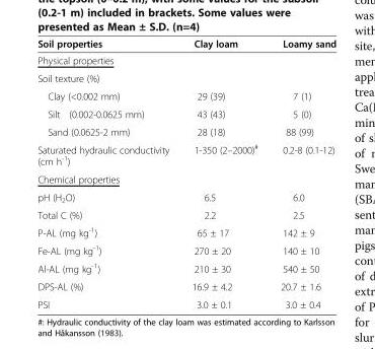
<table><thead><tr><td>Soil properties</td><td>Clay loam</td><td>Loamy sand</td></tr></thead><tbody><tr><td colspan="3">Physical properties</td></tr><tr><td colspan="3">Soil texture (%)</td></tr><tr><td>Clay (&lt;0.002 mm)</td><td>29 (39)</td><td>7 (1)</td></tr><tr><td>Silt (0.002-0.0625 mm)</td><td>43 (43)</td><td>5 (0)</td></tr><tr><td>Sand (0.0625-2 mm)</td><td>28 (18)</td><td>88 (99)</td></tr><tr><td>Saturated hydraulic conductivity (cm h<sup>-1</sup>)</td><td>1-350 (2–2000)<sup>#</sup></td><td>0.2-8 (0.1-12)</td></tr><tr><td colspan="3">Chemical properties</td></tr><tr><td>pH (H<sub>2</sub>O)</td><td>6.5</td><td>6.0</td></tr><tr><td>Total C (%)</td><td>2.2</td><td>2.5</td></tr><tr><td>P-AL (mg kg<sup>-1</sup>)</td><td>65 ± 17</td><td>142 ± 9</td></tr><tr><td>Fe-AL (mg kg<sup>-1</sup>)</td><td>270 ± 20</td><td>140 ± 10</td></tr><tr><td>Al-AL (mg kg<sup>-1</sup>)</td><td>210 ± 30</td><td>540 ± 50</td></tr><tr><td>DPS-AL (%)</td><td>16.9 ± 4.2</td><td>20.7 ± 1.6</td></tr><tr><td>PSI</td><td>3.0 ± 0.1</td><td>3.0 ± 0.4</td></tr></tbody></table>